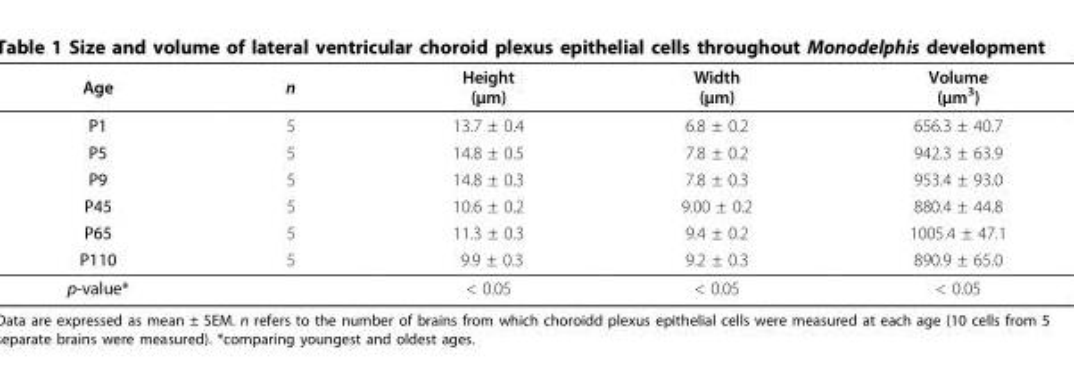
<table><thead><tr><td>Age</td><td>n</td><td>Height (μm)</td><td>Width (μm)</td><td>Volume (μm<sup>3</sup>)</td></tr></thead><tbody><tr><td>P1</td><td>5</td><td>13.7 ± 0.4</td><td>6.8 ± 0.2</td><td>656.3 ± 40.7</td></tr><tr><td>P5</td><td>5</td><td>14.8 ± 0.5</td><td>7.8 ± 0.2</td><td>942.3 ± 63.9</td></tr><tr><td>P9</td><td>5</td><td>14.8 ± 0.3</td><td>7.8 ± 0.3</td><td>953.4 ± 93.0</td></tr><tr><td>P45</td><td>5</td><td>10.6 ± 0.2</td><td>9.00 ± 0.2</td><td>880.4 ± 44.8</td></tr><tr><td>P65</td><td>5</td><td>11.3 ± 0.3</td><td>9.4 ± 0.2</td><td>1005.4 ± 47.1</td></tr><tr><td>P110</td><td>5</td><td>9.9 ± 0.3</td><td>9.2 ± 0.3</td><td>890.9 ± 65.0</td></tr><tr><td>p-value*</td><td></td><td>&lt; 0.05</td><td>&lt; 0.05</td><td>&lt; 0.05</td></tr></tbody></table>